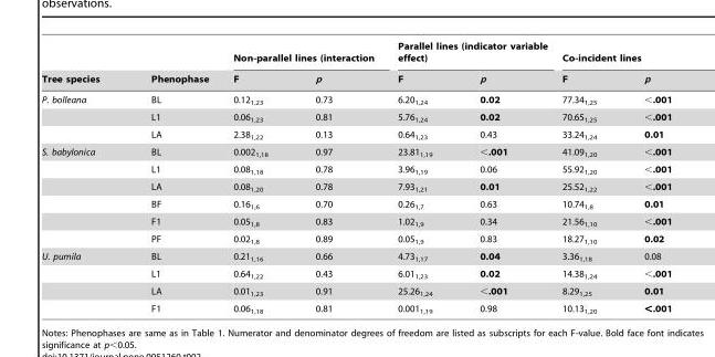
<table><thead><tr><td rowspan="2">Tree species</td><td rowspan="2">Phenophase</td><td colspan="2">Non-parallel lines (interaction</td><td colspan="2">Parallel lines (indicator variable effect)</td><td colspan="2">Co-incident lines</td></tr><tr><td>F</td><td>p</td><td>F</td><td>p</td><td>F</td><td>p</td></tr></thead><tbody><tr><td rowspan="3">P. bolleana</td><td>BL</td><td>0.12<sub>1,23</sub></td><td>0.73</td><td>6.20<sub>1,24</sub></td><td>0.02</td><td>77.34<sub>1,25</sub></td><td>&lt;.001</td></tr><tr><td>L1</td><td>0.06<sub>1,23</sub></td><td>0.81</td><td>5.76<sub>1,24</sub></td><td>0.02</td><td>70.65<sub>1,25</sub></td><td>&lt;.001</td></tr><tr><td>LA</td><td>2.38<sub>1,22</sub></td><td>0.13</td><td>0.64<sub>1,23</sub></td><td>0.43</td><td>33.24<sub>1,24</sub></td><td>0.01</td></tr><tr><td rowspan="6">S. babylonica</td><td>BL</td><td>0.002<sub>1,18</sub></td><td>0.97</td><td>23.81<sub>1,19</sub></td><td>&lt;.001</td><td>41.09<sub>1,20</sub></td><td>&lt;.001</td></tr><tr><td>L1</td><td>0.08<sub>1,18</sub></td><td>0.78</td><td>3.96<sub>1,19</sub></td><td>0.06</td><td>55.92<sub>1,20</sub></td><td>&lt;.001</td></tr><tr><td>LA</td><td>0.08<sub>1,20</sub></td><td>0.78</td><td>7.93<sub>1,21</sub></td><td>0.01</td><td>25.52<sub>1,22</sub></td><td>&lt;.001</td></tr><tr><td>BF</td><td>0.16<sub>1,6</sub></td><td>0.70</td><td>0.26<sub>1,7</sub></td><td>0.63</td><td>10.74<sub>1,8</sub></td><td>0.01</td></tr><tr><td>F1</td><td>0.05<sub>1,8</sub></td><td>0.83</td><td>1.02<sub>1,9</sub></td><td>0.34</td><td>21.56<sub>1,10</sub></td><td>&lt;.001</td></tr><tr><td>PF</td><td>0.02<sub>1,8</sub></td><td>0.89</td><td>0.05<sub>1,9</sub></td><td>0.83</td><td>18.27<sub>1,10</sub></td><td>0.02</td></tr><tr><td rowspan="4">U. pumila</td><td>BL</td><td>0.21<sub>1,16</sub></td><td>0.66</td><td>4.73<sub>1,17</sub></td><td>0.04</td><td>3.36<sub>1,18</sub></td><td>0.08</td></tr><tr><td>L1</td><td>0.64<sub>1,22</sub></td><td>0.43</td><td>6.01<sub>1,23</sub></td><td>0.02</td><td>14.38<sub>1,24</sub></td><td>&lt;.001</td></tr><tr><td>LA</td><td>0.01<sub>1,23</sub></td><td>0.91</td><td>25.26<sub>1,24</sub></td><td>&lt;.001</td><td>8.29<sub>1,25</sub></td><td>0.01</td></tr><tr><td>F1</td><td>0.06<sub>1,18</sub></td><td>0.81</td><td>0.001<sub>1,19</sub></td><td>0.98</td><td>10.13<sub>1,20</sub></td><td>&lt;.001</td></tr></tbody></table>